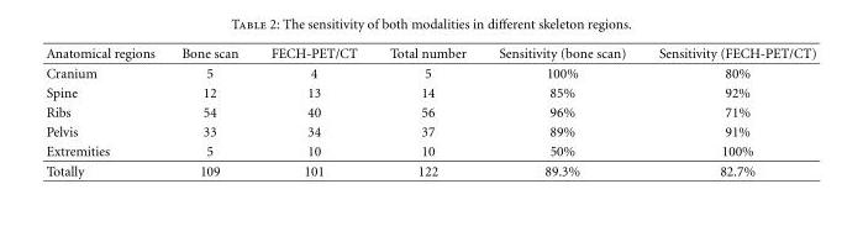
<table><thead><tr><td>Anatomical regions</td><td>Bone scan</td><td>FECH-PET/CT</td><td>Total number</td><td>Sensitivity (bone scan)</td><td>Sensitivity (FECH-PET/CT)</td></tr></thead><tbody><tr><td>Cranium</td><td>5</td><td>4</td><td>5</td><td>100%</td><td>80%</td></tr><tr><td>Spine</td><td>12</td><td>13</td><td>14</td><td>85%</td><td>92%</td></tr><tr><td>Ribs</td><td>54</td><td>40</td><td>56</td><td>96%</td><td>71%</td></tr><tr><td>Pelvis</td><td>33</td><td>34</td><td>37</td><td>89%</td><td>91%</td></tr><tr><td>Extremities</td><td>5</td><td>10</td><td>10</td><td>50%</td><td>100%</td></tr><tr><td>Totally</td><td>109</td><td>101</td><td>122</td><td>89.3%</td><td>82.7%</td></tr></tbody></table>